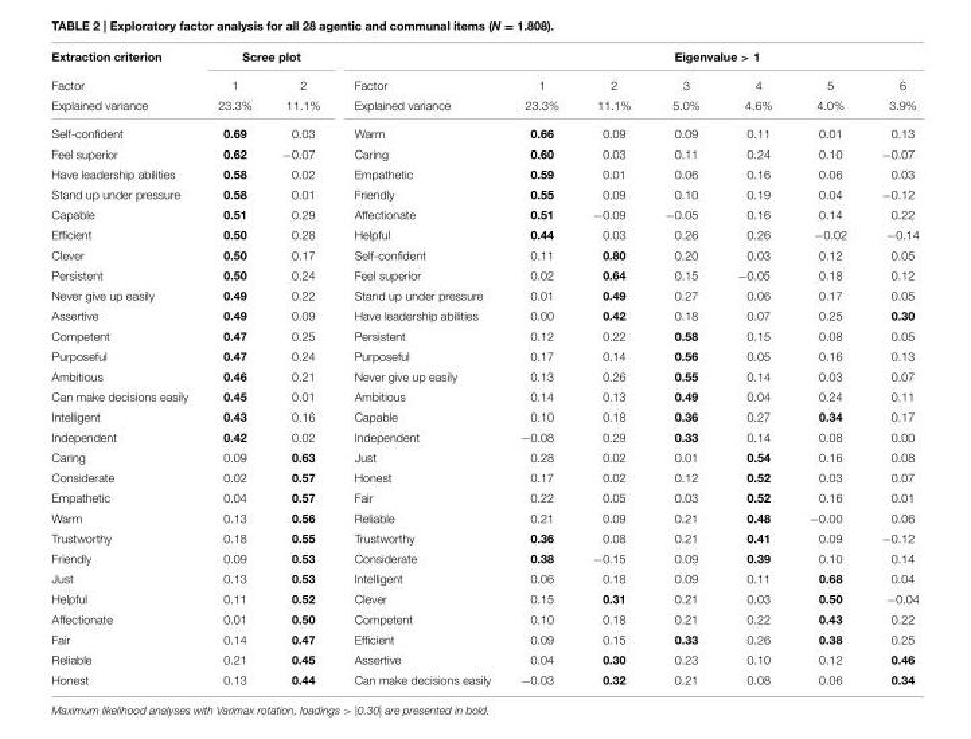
<table><thead><tr><td rowspan="2">Extraction criterion Factor</td><td colspan="2">Scree plot</td><td rowspan="2">Factor</td><td colspan="6">Eigenvalue &gt; 1</td></tr><tr><td>1</td><td>2</td><td>1</td><td>2</td><td>3</td><td>4</td><td>5</td><td>6</td></tr></thead><tbody><tr><td>Explained variance</td><td>23.3%</td><td>11.1%</td><td>Explained variance</td><td>23.3%</td><td>11.1%</td><td>5.0%</td><td>4.6%</td><td>4.0%</td><td>3.9%</td></tr><tr><td>Self-confident</td><td>0.69</td><td>0.03</td><td>Warm</td><td>0.66</td><td>0.09</td><td>0.09</td><td>0.11</td><td>0.01</td><td>0.13</td></tr><tr><td>Feel superior</td><td>0.62</td><td>−0.07</td><td>Caring</td><td>0.60</td><td>0.03</td><td>0.11</td><td>0.24</td><td>0.10</td><td>−0.07</td></tr><tr><td>Have leadership abilities</td><td>0.58</td><td>0.02</td><td>Empathetic</td><td>0.59</td><td>0.01</td><td>0.06</td><td>0.16</td><td>0.06</td><td>0.03</td></tr><tr><td>Stand up under pressure</td><td>0.58</td><td>0.01</td><td>Friendly</td><td>0.55</td><td>0.09</td><td>0.10</td><td>0.19</td><td>0.04</td><td>−0.12</td></tr><tr><td>Capable</td><td>0.51</td><td>0.29</td><td>Affectionate</td><td>0.51</td><td>−0.09</td><td>−0.05</td><td>0.16</td><td>0.14</td><td>0.22</td></tr><tr><td>Efficient</td><td>0.50</td><td>0.28</td><td>Helpful</td><td>0.44</td><td>0.03</td><td>0.26</td><td>0.26</td><td>−0.02</td><td>−0.14</td></tr><tr><td>Clever</td><td>0.50</td><td>0.17</td><td>Self-confident</td><td>0.11</td><td>0.80</td><td>0.20</td><td>0.03</td><td>0.12</td><td>0.05</td></tr><tr><td>Persistent</td><td>0.50</td><td>0.24</td><td>Feel superior</td><td>0.02</td><td>0.64</td><td>0.15</td><td>−0.05</td><td>0.18</td><td>0.12</td></tr><tr><td>Never give up easily</td><td>0.49</td><td>0.22</td><td>Stand up under pressure</td><td>0.01</td><td>0.49</td><td>0.27</td><td>0.06</td><td>0.17</td><td>0.05</td></tr><tr><td>Assertive</td><td>0.49</td><td>0.09</td><td>Have leadership abilities</td><td>0.00</td><td>0.42</td><td>0.18</td><td>0.07</td><td>0.25</td><td>0.30</td></tr><tr><td>Competent</td><td>0.47</td><td>0.25</td><td>Persistent</td><td>0.12</td><td>0.22</td><td>0.58</td><td>0.15</td><td>0.08</td><td>0.05</td></tr><tr><td>Purposeful</td><td>0.47</td><td>0.24</td><td>Purposeful</td><td>0.17</td><td>0.14</td><td>0.56</td><td>0.05</td><td>0.16</td><td>0.13</td></tr><tr><td>Ambitious</td><td>0.46</td><td>0.21</td><td>Never give up easily</td><td>0.13</td><td>0.26</td><td>0.55</td><td>0.14</td><td>0.03</td><td>0.07</td></tr><tr><td>Can make decisions easily</td><td>0.45</td><td>0.01</td><td>Ambitious</td><td>0.14</td><td>0.13</td><td>0.49</td><td>0.04</td><td>0.24</td><td>0.11</td></tr><tr><td>Intelligent</td><td>0.43</td><td>0.16</td><td>Capable</td><td>0.10</td><td>0.18</td><td>0.36</td><td>0.27</td><td>0.34</td><td>0.17</td></tr><tr><td>Independent</td><td>0.42</td><td>0.02</td><td>Independent</td><td>−0.08</td><td>0.29</td><td>0.33</td><td>0.14</td><td>0.08</td><td>0.00</td></tr><tr><td>Caring</td><td>0.09</td><td>0.63</td><td>Just</td><td>0.28</td><td>0.02</td><td>0.01</td><td>0.54</td><td>0.16</td><td>0.08</td></tr><tr><td>Considerate</td><td>0.02</td><td>0.57</td><td>Honest</td><td>0.17</td><td>0.02</td><td>0.12</td><td>0.52</td><td>0.03</td><td>0.07</td></tr><tr><td>Empathetic</td><td>0.04</td><td>0.57</td><td>Fair</td><td>0.22</td><td>0.05</td><td>0.03</td><td>0.52</td><td>0.16</td><td>0.01</td></tr><tr><td>Warm</td><td>0.13</td><td>0.56</td><td>Reliable</td><td>0.21</td><td>0.09</td><td>0.21</td><td>0.48</td><td>−0.00</td><td>0.06</td></tr><tr><td>Trustworthy</td><td>0.18</td><td>0.55</td><td>Trustworthy</td><td>0.36</td><td>0.08</td><td>0.21</td><td>0.41</td><td>0.09</td><td>−0.12</td></tr><tr><td>Friendly</td><td>0.09</td><td>0.53</td><td>Considerate</td><td>0.38</td><td>−0.15</td><td>0.09</td><td>0.39</td><td>0.10</td><td>0.14</td></tr><tr><td>Just</td><td>0.13</td><td>0.53</td><td>Intelligent</td><td>0.06</td><td>0.18</td><td>0.09</td><td>0.11</td><td>0.68</td><td>0.04</td></tr><tr><td>Helpful</td><td>0.11</td><td>0.52</td><td>Clever</td><td>0.15</td><td>0.31</td><td>0.21</td><td>0.03</td><td>0.50</td><td>−0.04</td></tr><tr><td>Affectionate</td><td>0.01</td><td>0.50</td><td>Competent</td><td>0.10</td><td>0.18</td><td>0.21</td><td>0.22</td><td>0.43</td><td>0.22</td></tr><tr><td>Fair</td><td>0.14</td><td>0.47</td><td>Efficient</td><td>0.09</td><td>0.15</td><td>0.33</td><td>0.26</td><td>0.38</td><td>0.25</td></tr><tr><td>Reliable</td><td>0.21</td><td>0.45</td><td>Assertive</td><td>0.04</td><td>0.30</td><td>0.23</td><td>0.10</td><td>0.12</td><td>0.46</td></tr><tr><td>Honest</td><td>0.13</td><td>0.44</td><td>Can make decisions easily</td><td>−0.03</td><td>0.32</td><td>0.21</td><td>0.08</td><td>0.06</td><td>0.34</td></tr></tbody></table>